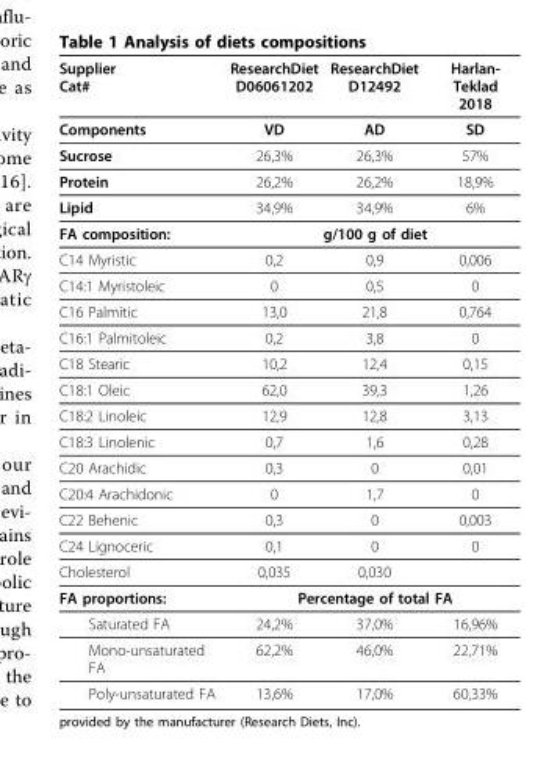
<table><thead><tr><td>Supplier Cat#</td><td>ResearchDiet D06061202</td><td>ResearchDiet D12492</td><td>Harlan- Teklad 2018</td></tr></thead><tbody><tr><td>Components</td><td>VD</td><td>AD</td><td>SD</td></tr><tr><td>Sucrose</td><td>26,3%</td><td>26,3%</td><td>57%</td></tr><tr><td>Protein</td><td>26,2%</td><td>26,2%</td><td>18,9%</td></tr><tr><td>Lipid</td><td>34,9%</td><td>34,9%</td><td>6%</td></tr><tr><td>FA composition:</td><td colspan="3">g/100 g of diet</td></tr><tr><td>C14 Myristic</td><td>0,2</td><td>0,9</td><td>0,006</td></tr><tr><td>C14:1 Myristoleic</td><td>0</td><td>0,5</td><td>0</td></tr><tr><td>C16 Palmitic</td><td>13,0</td><td>21,8</td><td>0,764</td></tr><tr><td>C16:1 Palmitoleic</td><td>0,2</td><td>3,8</td><td>0</td></tr><tr><td>C18 Stearic</td><td>10,2</td><td>12,4</td><td>0,15</td></tr><tr><td>C18:1 Oleic</td><td>62,0</td><td>39,3</td><td>1,26</td></tr><tr><td>C18:2 Linoleic</td><td>12,9</td><td>12,8</td><td>3,13</td></tr><tr><td>C18:3 Linolenic</td><td>0,7</td><td>1,6</td><td>0,28</td></tr><tr><td>C20 Arachidic</td><td>0,3</td><td>0</td><td>0,01</td></tr><tr><td>C20:4 Arachidonic</td><td>0</td><td>1,7</td><td>0</td></tr><tr><td>C22 Behenic</td><td>0,3</td><td>0</td><td>0,003</td></tr><tr><td>C24 Lignoceric</td><td>0,1</td><td>0</td><td>0</td></tr><tr><td>Cholesterol</td><td>0,035</td><td>0,030</td><td></td></tr><tr><td>FA proportions:</td><td colspan="3">Percentage of total FA</td></tr><tr><td>Saturated FA</td><td>24,2%</td><td>37,0%</td><td>16,96%</td></tr><tr><td>Mono-unsaturated FA</td><td>62,2%</td><td>46,0%</td><td>22,71%</td></tr><tr><td>Poly-unsaturated FA</td><td>13,6%</td><td>17,0%</td><td>60,33%</td></tr></tbody></table>